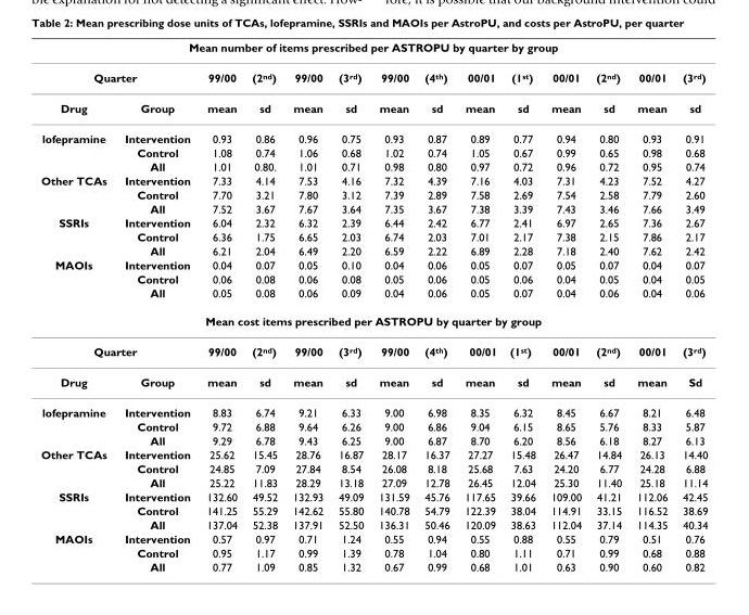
<table><thead><tr><td colspan="14">Mean number of items prescribed per ASTROPU by quarter by group</td></tr><tr><td colspan="2">Quarter</td><td colspan="2">99/00 (2<sup>nd</sup>)</td><td colspan="2">99/00 (3<sup>rd</sup>)</td><td colspan="2">99/00 (4<sup>th</sup>)</td><td colspan="2">00/01 (1<sup>st</sup>)</td><td colspan="2">00/01 (2<sup>nd</sup>)</td><td colspan="2">00/01 (3<sup>rd</sup>)</td></tr><tr><td>Drug</td><td>Group</td><td>mean</td><td>sd</td><td>mean</td><td>sd</td><td>mean</td><td>sd</td><td>mean</td><td>sd</td><td>mean</td><td>sd</td><td>mean</td><td>sd</td></tr></thead><tbody><tr><td rowspan="3">lofepramine</td><td>Intervention</td><td>0.93</td><td>0.86</td><td>0.96</td><td>0.75</td><td>0.93</td><td>0.87</td><td>0.89</td><td>0.77</td><td>0.94</td><td>0.80</td><td>0.93</td><td>0.91</td></tr><tr><td>Control</td><td>1.08</td><td>0.74</td><td>1.06</td><td>0.68</td><td>1.02</td><td>0.74</td><td>1.05</td><td>0.67</td><td>0.99</td><td>0.65</td><td>0.98</td><td>0.68</td></tr><tr><td>All</td><td>1.01</td><td>0.80.</td><td>1.01</td><td>0.71</td><td>0.98</td><td>0.80</td><td>0.97</td><td>0.72</td><td>0.96</td><td>0.72</td><td>0.95</td><td>0.74</td></tr><tr><td rowspan="3">Other TCAs</td><td>Intervention</td><td>7.33</td><td>4.14</td><td>7.53</td><td>4.16</td><td>7.32</td><td>4.39</td><td>7.16</td><td>4.03</td><td>7.31</td><td>4.23</td><td>7.52</td><td>4.27</td></tr><tr><td>Control</td><td>7.70</td><td>3.21</td><td>7.80</td><td>3.12</td><td>7.39</td><td>2.89</td><td>7.58</td><td>2.69</td><td>7.54</td><td>2.58</td><td>7.79</td><td>2.60</td></tr><tr><td>All</td><td>7.52</td><td>3.67</td><td>7.67</td><td>3.64</td><td>7.35</td><td>3.67</td><td>7.38</td><td>3.39</td><td>7.43</td><td>3.46</td><td>7.66</td><td>3.49</td></tr><tr><td rowspan="3">SSRIs</td><td>Intervention</td><td>6.04</td><td>2.32</td><td>6.32</td><td>2.39</td><td>6.44</td><td>2.42</td><td>6.77</td><td>2.41</td><td>6.97</td><td>2.65</td><td>7.36</td><td>2.67</td></tr><tr><td>Control</td><td>6.36</td><td>1.75</td><td>6.65</td><td>2.03</td><td>6.74</td><td>2.03</td><td>7.01</td><td>2.17</td><td>7.38</td><td>2.15</td><td>7.86</td><td>2.17</td></tr><tr><td>All</td><td>6.21</td><td>2.04</td><td>6.49</td><td>2.20</td><td>6.59</td><td>2.22</td><td>6.89</td><td>2.28</td><td>7.18</td><td>2.40</td><td>7.62</td><td>2.42</td></tr><tr><td rowspan="3">MAOIs</td><td>Intervention</td><td>0.04</td><td>0.07</td><td>0.05</td><td>0.10</td><td>0.04</td><td>0.06</td><td>0.05</td><td>0.07</td><td>0.05</td><td>0.07</td><td>0.04</td><td>0.07</td></tr><tr><td>Control</td><td>0.06</td><td>0.08</td><td>0.06</td><td>0.08</td><td>0.05</td><td>0.06</td><td>0.05</td><td>0.06</td><td>0.04</td><td>0.05</td><td>0.04</td><td>0.05</td></tr><tr><td>All</td><td>0.05</td><td>0.08</td><td>0.06</td><td>0.09</td><td>0.04</td><td>0.06</td><td>0.05</td><td>0.07</td><td>0.04</td><td>0.06</td><td>0.04</td><td>0.06</td></tr><tr><td colspan="14">Mean cost items prescribed per ASTROPU by quarter by group</td></tr><tr><td colspan="2">Quarter</td><td colspan="2">99/00 (2<sup>nd</sup>)</td><td colspan="2">99/00 (3<sup>rd</sup>)</td><td colspan="2">99/00 (4<sup>th</sup>)</td><td colspan="2">00/01 (1<sup>st</sup>)</td><td colspan="2">00/01 (2<sup>nd</sup>)</td><td colspan="2">00/01 (3<sup>rd</sup>)</td></tr><tr><td>Drug</td><td>Group</td><td>mean</td><td>sd</td><td>mean</td><td>sd</td><td>mean</td><td>sd</td><td>mean</td><td>sd</td><td>mean</td><td>sd</td><td>mean</td><td>Sd</td></tr><tr><td rowspan="3">lofepramine</td><td>Intervention</td><td>8.83</td><td>6.74</td><td>9.21</td><td>6.33</td><td>9.00</td><td>6.98</td><td>8.35</td><td>6.32</td><td>8.45</td><td>6.67</td><td>8.21</td><td>6.48</td></tr><tr><td>Control</td><td>9.72</td><td>6.88</td><td>9.64</td><td>6.26</td><td>9.00</td><td>6.86</td><td>9.04</td><td>6.15</td><td>8.65</td><td>5.76</td><td>8.33</td><td>5.87</td></tr><tr><td>All</td><td>9.29</td><td>6.78</td><td>9.43</td><td>6.25</td><td>9.00</td><td>6.87</td><td>8.70</td><td>6.20</td><td>8.56</td><td>6.18</td><td>8.27</td><td>6.13</td></tr><tr><td rowspan="3">Other TCAs</td><td>Intervention</td><td>25.62</td><td>15.45</td><td>28.76</td><td>16.87</td><td>28.17</td><td>16.37</td><td>27.27</td><td>15.48</td><td>26.47</td><td>14.84</td><td>26.13</td><td>14.40</td></tr><tr><td>Control</td><td>24.85</td><td>7.09</td><td>27.84</td><td>8.54</td><td>26.08</td><td>8.18</td><td>25.68</td><td>7.63</td><td>24.20</td><td>6.77</td><td>24.28</td><td>6.88</td></tr><tr><td>All</td><td>25.22</td><td>11.83</td><td>28.29</td><td>13.18</td><td>27.09</td><td>12.78</td><td>26.45</td><td>12.04</td><td>25.30</td><td>11.40</td><td>25.18</td><td>11.14</td></tr><tr><td rowspan="3">SSRIs</td><td>Intervention</td><td>132.60</td><td>49.52</td><td>132.93</td><td>49.09</td><td>131.59</td><td>45.76</td><td>117.65</td><td>39.66</td><td>109.00</td><td>41.21</td><td>112.06</td><td>42.45</td></tr><tr><td>Control</td><td>141.25</td><td>55.29</td><td>142.62</td><td>55.80</td><td>140.78</td><td>54.79</td><td>122.39</td><td>38.04</td><td>114.91</td><td>33.15</td><td>116.52</td><td>38.69</td></tr><tr><td>All</td><td>137.04</td><td>52.38</td><td>137.91</td><td>52.50</td><td>136.31</td><td>50.46</td><td>120.09</td><td>38.63</td><td>112.04</td><td>37.14</td><td>114.35</td><td>40.34</td></tr><tr><td rowspan="3">MAOIs</td><td>Intervention</td><td>0.57</td><td>0.97</td><td>0.71</td><td>1.24</td><td>0.55</td><td>0.94</td><td>0.55</td><td>0.88</td><td>0.55</td><td>0.79</td><td>0.51</td><td>0.76</td></tr><tr><td>Control</td><td>0.95</td><td>1.17</td><td>0.99</td><td>1.39</td><td>0.78</td><td>1.04</td><td>0.80</td><td>1.11</td><td>0.71</td><td>0.99</td><td>0.68</td><td>0.88</td></tr><tr><td>All</td><td>0.77</td><td>1.09</td><td>0.85</td><td>1.32</td><td>0.67</td><td>0.99</td><td>0.68</td><td>1.01</td><td>0.63</td><td>0.90</td><td>0.60</td><td>0.82</td></tr></tbody></table>